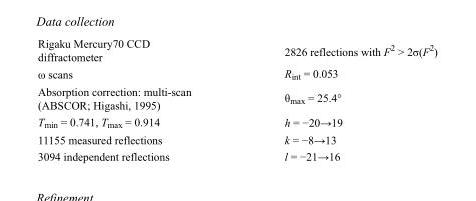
<table><tbody><tr><td>Rigaku Mercury70 CCD diffractometer</td><td>2826 reflections with F<sup>2</sup> &gt; 2σ(F<sup>2</sup>)</td></tr><tr><td>ω scans</td><td>R<sub>int</sub> = 0.053</td></tr><tr><td>Absorption correction: multi-scan (ABSCOR; Higashi, 1995)</td><td>θ<sub>max</sub> = 25.4°</td></tr><tr><td>T<sub>min</sub> = 0.741, T<sub>max</sub> = 0.914</td><td>h = −20→19</td></tr><tr><td>11155 measured reflections</td><td>k = −8→13</td></tr><tr><td>3094 independent reflections</td><td>l = −21→16</td></tr></tbody></table>